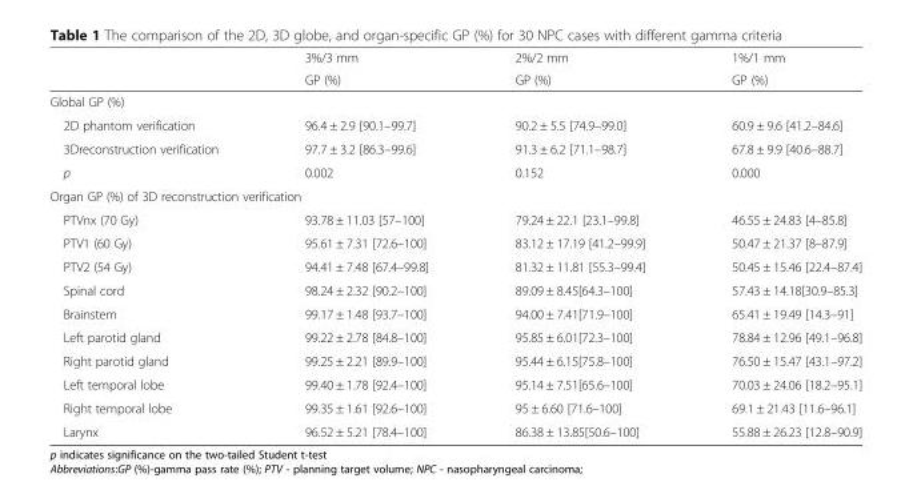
<table><thead><tr><td rowspan="2"></td><td rowspan="2">3%/3 mm GP (%)</td><td rowspan="2">2%/2 mm GP (%)</td><td rowspan="2">1%/1 mm GP (%)</td></tr><tr></tr></thead><tbody><tr><td colspan="4">Global GP (%)</td></tr><tr><td>2D phantom verification</td><td>96.4 ± 2.9 [90.1–99.7]</td><td>90.2 ± 5.5 [74.9–99.0]</td><td>60.9 ± 9.6 [41.2–84.6]</td></tr><tr><td>3Dreconstruction verification</td><td>97.7 ± 3.2 [86.3–99.6]</td><td>91.3 ± 6.2 [71.1–98.7]</td><td>67.8 ± 9.9 [40.6–88.7]</td></tr><tr><td>p</td><td>0.002</td><td>0.152</td><td>0.000</td></tr><tr><td colspan="4">Organ GP (%) of 3D reconstruction verification</td></tr><tr><td>PTVnx (70 Gy)</td><td>93.78 ± 11.03 [57–100]</td><td>79.24 ± 22.1 [23.1–99.8]</td><td>46.55 ± 24.83 [4–85.8]</td></tr><tr><td>PTV1 (60 Gy)</td><td>95.61 ± 7.31 [72.6–100]</td><td>83.12 ± 17.19 [41.2–99.9]</td><td>50.47 ± 21.37 [8–87.9]</td></tr><tr><td>PTV2 (54 Gy)</td><td>94.41 ± 7.48 [67.4–99.8]</td><td>81.32 ± 11.81 [55.3–99.4]</td><td>50.45 ± 15.46 [22.4–87.4]</td></tr><tr><td>Spinal cord</td><td>98.24 ± 2.32 [90.2–100]</td><td>89.09 ± 8.45[64.3–100]</td><td>57.43 ± 14.18[30.9–85.3]</td></tr><tr><td>Brainstem</td><td>99.17 ± 1.48 [93.7–100]</td><td>94.00 ± 7.41[71.9–100]</td><td>65.41 ± 19.49 [14.3–91]</td></tr><tr><td>Left parotid gland</td><td>99.22 ± 2.78 [84.8–100]</td><td>95.85 ± 6.01[72.3–100]</td><td>78.84 ± 12.96 [49.1–96.8]</td></tr><tr><td>Right parotid gland</td><td>99.25 ± 2.21 [89.9–100]</td><td>95.44 ± 6.15[75.8–100]</td><td>76.50 ± 15.47 [43.1–97.2]</td></tr><tr><td>Left temporal lobe</td><td>99.40 ± 1.78 [92.4–100]</td><td>95.14 ± 7.51[65.6–100]</td><td>70.03 ± 24.06 [18.2–95.1]</td></tr><tr><td>Right temporal lobe</td><td>99.35 ± 1.61 [92.6–100]</td><td>95 ± 6.60 [71.6–100]</td><td>69.1 ± 21.43 [11.6–96.1]</td></tr><tr><td>Larynx</td><td>96.52 ± 5.21 [78.4–100]</td><td>86.38 ± 13.85[50.6–100]</td><td>55.88 ± 26.23 [12.8–90.9]</td></tr></tbody></table>